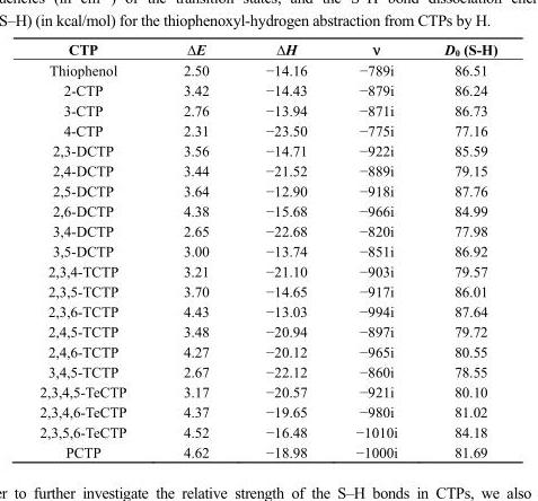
<table><thead><tr><td>CTP</td><td>∆E</td><td>∆H</td><td>ν</td><td>D<sub>0</sub> (S-H)</td></tr></thead><tbody><tr><td>Thiophenol</td><td>2.50</td><td>−14.16</td><td>−789i</td><td>86.51</td></tr><tr><td>2-CTP</td><td>3.42</td><td>−14.43</td><td>−879i</td><td>86.24</td></tr><tr><td>3-CTP</td><td>2.76</td><td>−13.94</td><td>−871i</td><td>86.73</td></tr><tr><td>4-CTP</td><td>2.31</td><td>−23.50</td><td>−775i</td><td>77.16</td></tr><tr><td>2,3-DCTP</td><td>3.56</td><td>−14.71</td><td>−922i</td><td>85.59</td></tr><tr><td>2,4-DCTP</td><td>3.44</td><td>−21.52</td><td>−889i</td><td>79.15</td></tr><tr><td>2,5-DCTP</td><td>3.64</td><td>−12.90</td><td>−918i</td><td>87.76</td></tr><tr><td>2,6-DCTP</td><td>4.38</td><td>−15.68</td><td>−966i</td><td>84.99</td></tr><tr><td>3,4-DCTP</td><td>2.65</td><td>−22.68</td><td>−820i</td><td>77.98</td></tr><tr><td>3,5-DCTP</td><td>3.00</td><td>−13.74</td><td>−851i</td><td>86.92</td></tr><tr><td>2,3,4-TCTP</td><td>3.21</td><td>−21.10</td><td>−903i</td><td>79.57</td></tr><tr><td>2,3,5-TCTP</td><td>3.70</td><td>−14.65</td><td>−917i</td><td>86.01</td></tr><tr><td>2,3,6-TCTP</td><td>4.43</td><td>−13.03</td><td>−994i</td><td>87.64</td></tr><tr><td>2,4,5-TCTP</td><td>3.48</td><td>−20.94</td><td>−897i</td><td>79.72</td></tr><tr><td>2,4,6-TCTP</td><td>4.27</td><td>−20.12</td><td>−965i</td><td>80.55</td></tr><tr><td>3,4,5-TCTP</td><td>2.67</td><td>−22.12</td><td>−860i</td><td>78.55</td></tr><tr><td>2,3,4,5-TeCTP</td><td>3.17</td><td>−20.57</td><td>−921i</td><td>80.10</td></tr><tr><td>2,3,4,6-TeCTP</td><td>4.37</td><td>−19.65</td><td>−980i</td><td>81.02</td></tr><tr><td>2,3,5,6-TeCTP</td><td>4.52</td><td>−16.48</td><td>−1010i</td><td>84.18</td></tr><tr><td>PCTP</td><td>4.62</td><td>−18.98</td><td>−1000i</td><td>81.69</td></tr></tbody></table>